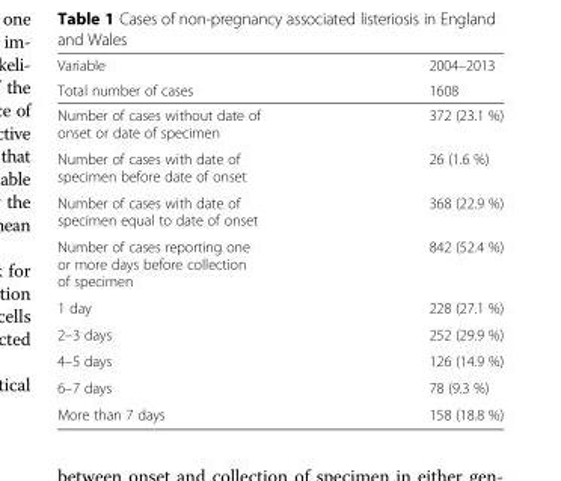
<table><thead><tr><td rowspan="2">Variable Total number of cases</td><td rowspan="2">2004–2013 1608</td></tr><tr></tr></thead><tbody><tr><td>Number of cases without date of onset or date of specimen</td><td>372 (23.1 %)</td></tr><tr><td>Number of cases with date of specimen before date of onset</td><td>26 (1.6 %)</td></tr><tr><td>Number of cases with date of specimen equal to date of onset</td><td>368 (22.9 %)</td></tr><tr><td>Number of cases reporting one or more days before collection of specimen</td><td>842 (52.4 %)</td></tr><tr><td>1 day</td><td>228 (27.1 %)</td></tr><tr><td>2–3 days</td><td>252 (29.9 %)</td></tr><tr><td>4–5 days</td><td>126 (14.9 %)</td></tr><tr><td>6–7 days</td><td>78 (9.3 %)</td></tr><tr><td>More than 7 days</td><td>158 (18.8 %)</td></tr></tbody></table>